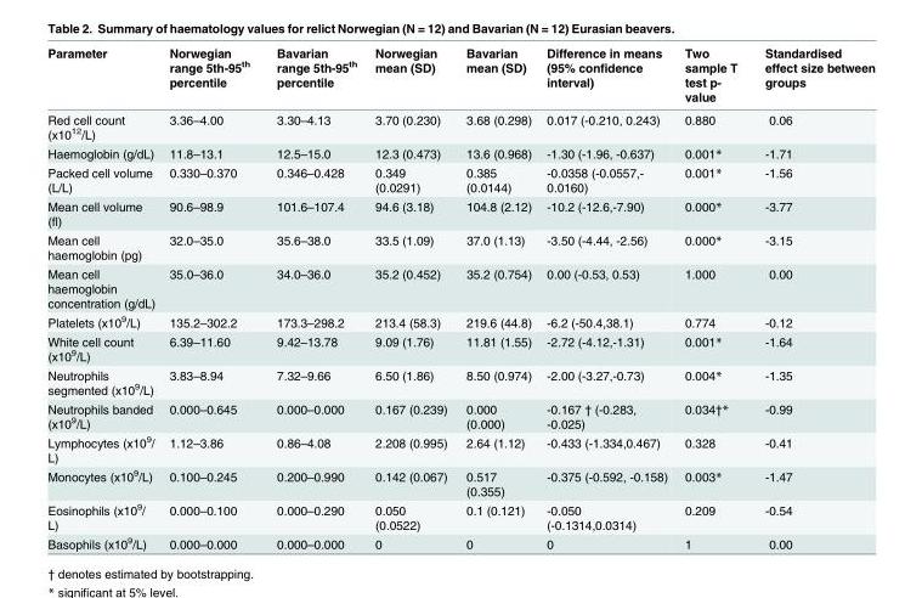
<table><thead><tr><td>Parameter</td><td>Norwegian range 5th-95<sup>th</sup> percentile</td><td>Bavarian range 5th-95<sup>th</sup> percentile</td><td>Norwegian mean (SD)</td><td>Bavarian mean (SD)</td><td>Difference in means (95% confidence interval)</td><td>Two sample T test p- value</td><td>Standardised effect size between groups</td></tr></thead><tbody><tr><td>Red cell count (x10<sup>12</sup>/L)</td><td>3.36–4.00</td><td>3.30–4.13</td><td>3.70 (0.230)</td><td>3.68 (0.298)</td><td>0.017 (-0.210, 0.243)</td><td>0.880</td><td>0.06</td></tr><tr><td>Haemoglobin (g/dL)</td><td>11.8–13.1</td><td>12.5–15.0</td><td>12.3 (0.473)</td><td>13.6 (0.968)</td><td>-1.30 (-1.96, -0.637)</td><td>0.001*</td><td>-1.71</td></tr><tr><td>Packed cell volume (L/L)</td><td>0.330–0.370</td><td>0.346–0.428</td><td>0.349 (0.0291)</td><td>0.385 (0.0144)</td><td>-0.0358 (-0.0557,- 0.0160)</td><td>0.001*</td><td>-1.56</td></tr><tr><td>Mean cell volume (fl)</td><td>90.6–98.9</td><td>101.6–107.4</td><td>94.6 (3.18)</td><td>104.8 (2.12)</td><td>-10.2 (-12.6,-7.90)</td><td>0.000*</td><td>-3.77</td></tr><tr><td>Mean cell haemoglobin (pg)</td><td>32.0–35.0</td><td>35.6–38.0</td><td>33.5 (1.09)</td><td>37.0 (1.13)</td><td>-3.50 (-4.44, -2.56)</td><td>0.000*</td><td>-3.15</td></tr><tr><td>Mean cell haemoglobin concentration (g/dL)</td><td>35.0–36.0</td><td>34.0–36.0</td><td>35.2 (0.452)</td><td>35.2 (0.754)</td><td>0.00 (-0.53, 0.53)</td><td>1.000</td><td>0.00</td></tr><tr><td>Platelets (x10<sup>9</sup>/L)</td><td>135.2–302.2</td><td>173.3–298.2</td><td>213.4 (58.3)</td><td>219.6 (44.8)</td><td>-6.2 (-50.4,38.1)</td><td>0.774</td><td>-0.12</td></tr><tr><td>White cell count (x10<sup>9</sup>/L)</td><td>6.39–11.60</td><td>9.42–13.78</td><td>9.09 (1.76)</td><td>11.81 (1.55)</td><td>-2.72 (-4.12,-1.31)</td><td>0.001*</td><td>-1.64</td></tr><tr><td>Neutrophils segmented (x10<sup>9</sup>/L)</td><td>3.83–8.94</td><td>7.32–9.66</td><td>6.50 (1.86)</td><td>8.50 (0.974)</td><td>-2.00 (-3.27,-0.73)</td><td>0.004*</td><td>-1.35</td></tr><tr><td>Neutrophils banded (x10<sup>9</sup>/L)</td><td>0.000–0.645</td><td>0.000–0.000</td><td>0.167 (0.239)</td><td>0.000 (0.000)</td><td>-0.167 † (-0.283, -0.025)</td><td>0.034†*</td><td>-0.99</td></tr><tr><td>Lymphocytes (x10<sup>9</sup>/ L)</td><td>1.12–3.86</td><td>0.86–4.08</td><td>2.208 (0.995)</td><td>2.64 (1.12)</td><td>-0.433 (-1.334,0.467)</td><td>0.328</td><td>-0.41</td></tr><tr><td>Monocytes (x10<sup>9</sup>/L)</td><td>0.100–0.245</td><td>0.200–0.990</td><td>0.142 (0.067)</td><td>0.517 (0.355)</td><td>-0.375 (-0.592, -0.158)</td><td>0.003*</td><td>-1.47</td></tr><tr><td>Eosinophils (x10<sup>9</sup>/ L)</td><td>0.000–0.100</td><td>0.000–0.290</td><td>0.050 (0.0522)</td><td>0.1 (0.121)</td><td>-0.050 (-0.1314,0.0314)</td><td>0.209</td><td>-0.54</td></tr><tr><td>Basophils (x10<sup>9</sup>/L)</td><td>0.000–0.000</td><td>0.000–0.000</td><td>0</td><td>0</td><td>0</td><td>1</td><td>0.00</td></tr></tbody></table>